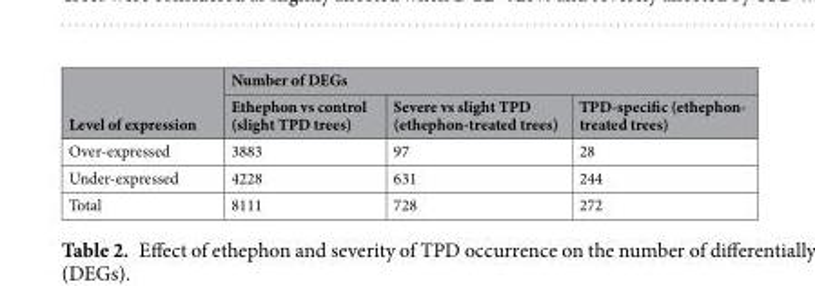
<table><thead><tr><td rowspan="2">Level of expression</td><td colspan="3">Number of DEGs</td></tr><tr><td>Ethephon vs control (slight TPD trees)</td><td>Severe vs slight TPD (ethephon-treated trees)</td><td>TPD-specific (ethephon- treated trees)</td></tr></thead><tbody><tr><td>Over-expressed</td><td>3883</td><td>97</td><td>28</td></tr><tr><td>Under-expressed</td><td>4228</td><td>631</td><td>244</td></tr><tr><td>Total</td><td>8111</td><td>728</td><td>272</td></tr></tbody></table>